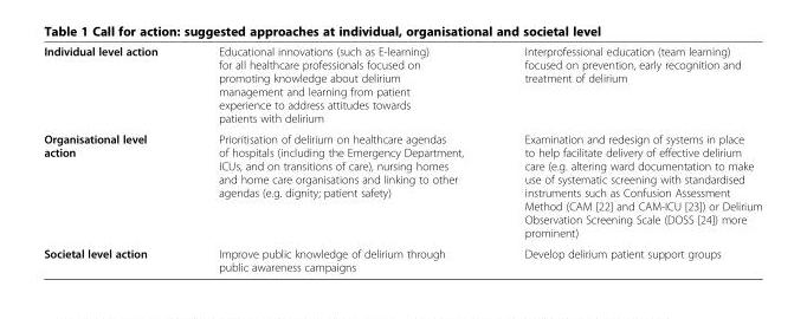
<table><tbody><tr><td>Individual level action</td><td>Educational innovations (such as E-learning) for all healthcare professionals focused on promoting knowledge about delirium management and learning from patient experience to address attitudes towards patients with delirium</td><td>Interprofessional education (team learning) focused on prevention, early recognition and treatment of delirium</td></tr><tr><td>Organisational level action</td><td>Prioritisation of delirium on healthcare agendas of hospitals (including the Emergency Department, ICUs, and on transitions of care), nursing homes and home care organisations and linking to other agendas (e.g. dignity; patient safety)</td><td>Examination and redesign of systems in place to help facilitate delivery of effective delirium care (e.g. altering ward documentation to make use of systematic screening with standardised instruments such as Confusion Assessment Method (CAM [22] and CAM-ICU [23]) or Delirium Observation Screening Scale (DOSS [24]) more prominent)</td></tr><tr><td>Societal level action</td><td>Improve public knowledge of delirium through public awareness campaigns</td><td>Develop delirium patient support groups</td></tr></tbody></table>